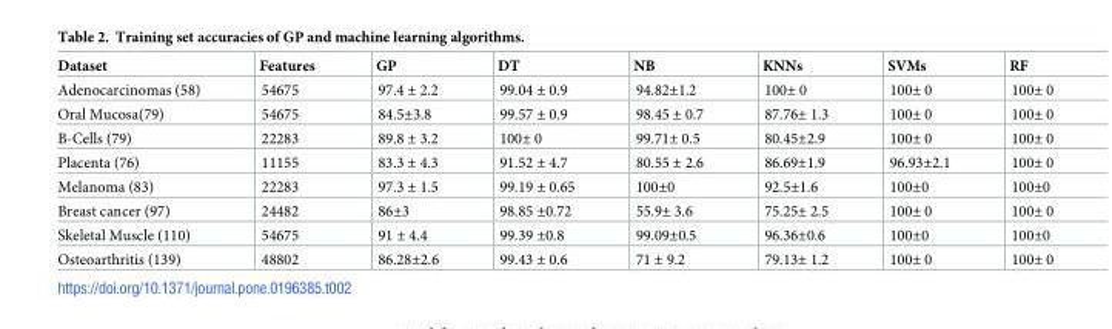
<table><thead><tr><td>Dataset</td><td>Features</td><td>GP</td><td>DT</td><td>NB</td><td>KNNs</td><td>SVMs</td><td>RF</td></tr></thead><tbody><tr><td>Adenocarcinomas (58)</td><td>54675</td><td>97.4 ± 2.2</td><td>99.04 ± 0.9</td><td>94.82±1.2</td><td>100± 0</td><td>100± 0</td><td>100± 0</td></tr><tr><td>Oral Mucosa(79)</td><td>54675</td><td>84.5±3.8</td><td>99.57 ± 0.9</td><td>98.45 ± 0.7</td><td>87.76± 1.3</td><td>100± 0</td><td>100± 0</td></tr><tr><td>B-Cells (79)</td><td>22283</td><td>89.8 ± 3.2</td><td>100± 0</td><td>99.71± 0.5</td><td>80.45±2.9</td><td>100± 0</td><td>100± 0</td></tr><tr><td>Placenta (76)</td><td>11155</td><td>83.3 ± 4.3</td><td>91.52 ± 4.7</td><td>80.55 ± 2.6</td><td>86.69±1.9</td><td>96.93±2.1</td><td>100± 0</td></tr><tr><td>Melanoma (83)</td><td>22283</td><td>97.3 ± 1.5</td><td>99.19 ± 0.65</td><td>100±0</td><td>92.5±1.6</td><td>100±0</td><td>100±0</td></tr><tr><td>Breast cancer (97)</td><td>24482</td><td>86±3</td><td>98.85 ±0.72</td><td>55.9± 3.6</td><td>75.25± 2.5</td><td>100± 0</td><td>100± 0</td></tr><tr><td>Skeletal Muscle (110)</td><td>54675</td><td>91 ± 4.4</td><td>99.39 ±0.8</td><td>99.09±0.5</td><td>96.36±0.6</td><td>100±0</td><td>100±0</td></tr><tr><td>Osteoarthritis (139)</td><td>48802</td><td>86.28±2.6</td><td>99.43 ± 0.6</td><td>71 ± 9.2</td><td>79.13± 1.2</td><td>100± 0</td><td>100± 0</td></tr></tbody></table>